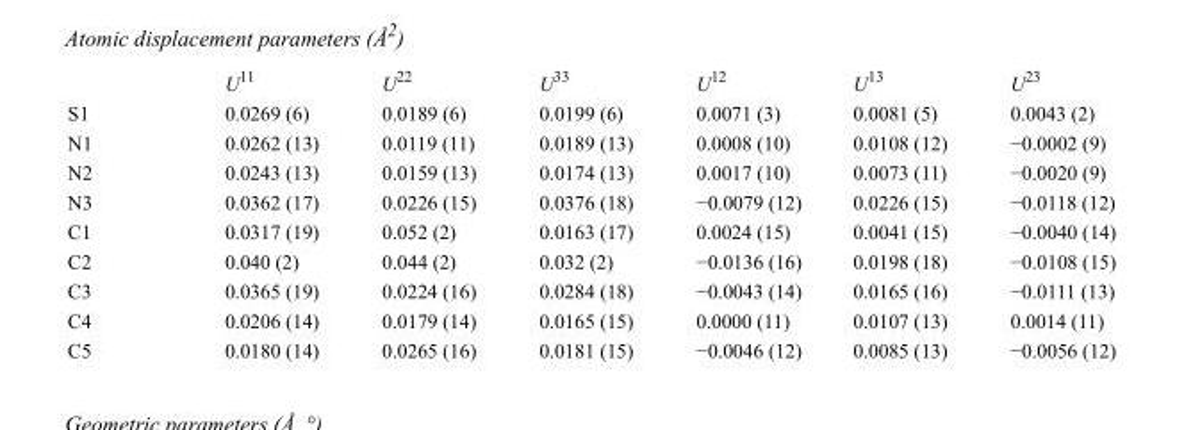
<table><thead><tr><td></td><td>U<sup>11</sup></td><td>U<sup>22</sup></td><td>U<sup>33</sup></td><td>U<sup>12</sup></td><td>U<sup>13</sup></td><td>U<sup>23</sup></td></tr></thead><tbody><tr><td>S1</td><td>0.0269 (6)</td><td>0.0189 (6)</td><td>0.0199 (6)</td><td>0.0071 (3)</td><td>0.0081 (5)</td><td>0.0043 (2)</td></tr><tr><td>N1</td><td>0.0262 (13)</td><td>0.0119 (11)</td><td>0.0189 (13)</td><td>0.0008 (10)</td><td>0.0108 (12)</td><td>−0.0002 (9)</td></tr><tr><td>N2</td><td>0.0243 (13)</td><td>0.0159 (13)</td><td>0.0174 (13)</td><td>0.0017 (10)</td><td>0.0073 (11)</td><td>−0.0020 (9)</td></tr><tr><td>N3</td><td>0.0362 (17)</td><td>0.0226 (15)</td><td>0.0376 (18)</td><td>−0.0079 (12)</td><td>0.0226 (15)</td><td>−0.0118 (12)</td></tr><tr><td>C1</td><td>0.0317 (19)</td><td>0.052 (2)</td><td>0.0163 (17)</td><td>0.0024 (15)</td><td>0.0041 (15)</td><td>−0.0040 (14)</td></tr><tr><td>C2</td><td>0.040 (2)</td><td>0.044 (2)</td><td>0.032 (2)</td><td>−0.0136 (16)</td><td>0.0198 (18)</td><td>−0.0108 (15)</td></tr><tr><td>C3</td><td>0.0365 (19)</td><td>0.0224 (16)</td><td>0.0284 (18)</td><td>−0.0043 (14)</td><td>0.0165 (16)</td><td>−0.0111 (13)</td></tr><tr><td>C4</td><td>0.0206 (14)</td><td>0.0179 (14)</td><td>0.0165 (15)</td><td>0.0000 (11)</td><td>0.0107 (13)</td><td>0.0014 (11)</td></tr><tr><td>C5</td><td>0.0180 (14)</td><td>0.0265 (16)</td><td>0.0181 (15)</td><td>−0.0046 (12)</td><td>0.0085 (13)</td><td>−0.0056 (12)</td></tr></tbody></table>